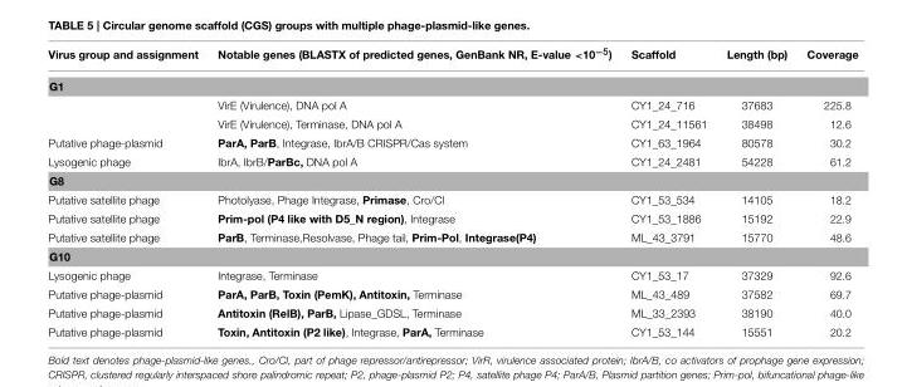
<table><thead><tr><td>Virus group and assignment</td><td>Notable genes (BLASTX of predicted genes, GenBank NR, E-value &lt;10<sup>−5</sup>)</td><td>Scaffold</td><td>Length (bp)</td><td>Coverage</td></tr></thead><tbody><tr><td colspan="5">G1</td></tr><tr><td></td><td>VirE (Virulence), DNA pol A</td><td>CY1_24_716</td><td>37683</td><td>225.8</td></tr><tr><td></td><td>VirE (Virulence), Terminase, DNA pol A</td><td>CY1_24_11561</td><td>38498</td><td>12.6</td></tr><tr><td>Putative phage-plasmid</td><td>ParA, ParB, Integrase, IbrA/B CRISPR/Cas system</td><td>CY1_63_1964</td><td>80578</td><td>30.2</td></tr><tr><td>Lysogenic phage</td><td>IbrA, IbrB/ParBc, DNA pol A</td><td>CY1_24_2481</td><td>54228</td><td>61.2</td></tr><tr><td colspan="5">G8</td></tr><tr><td>Putative satellite phage</td><td>Photolyase, Phage Integrase, Primase, Cro/Cl</td><td>CY1_53_534</td><td>14105</td><td>18.2</td></tr><tr><td>Putative satellite phage</td><td>Prim-pol (P4 like with D5_N region), Integrase</td><td>CY1_53_1886</td><td>15192</td><td>22.9</td></tr><tr><td>Putative satellite phage</td><td>ParB, Terminase,Resolvase, Phage tail, Prim-Pol, Integrase(P4)</td><td>ML_43_3791</td><td>15770</td><td>48.6</td></tr><tr><td colspan="5">G10</td></tr><tr><td>Lysogenic phage</td><td>Integrase, Terminase</td><td>CY1_53_17</td><td>37329</td><td>92.6</td></tr><tr><td>Putative phage-plasmid</td><td>ParA, ParB, Toxin (PemK), Antitoxin, Terminase</td><td>ML_43_489</td><td>37582</td><td>69.7</td></tr><tr><td>Putative phage-plasmid</td><td>Antitoxin (RelB), ParB, Lipase_GDSL, Terminase</td><td>ML_33_2393</td><td>38190</td><td>40.0</td></tr><tr><td>Putative phage-plasmid</td><td>Toxin, Antitoxin (P2 like), Integrase, ParA, Terminase</td><td>CY1_53_144</td><td>15551</td><td>20.2</td></tr></tbody></table>